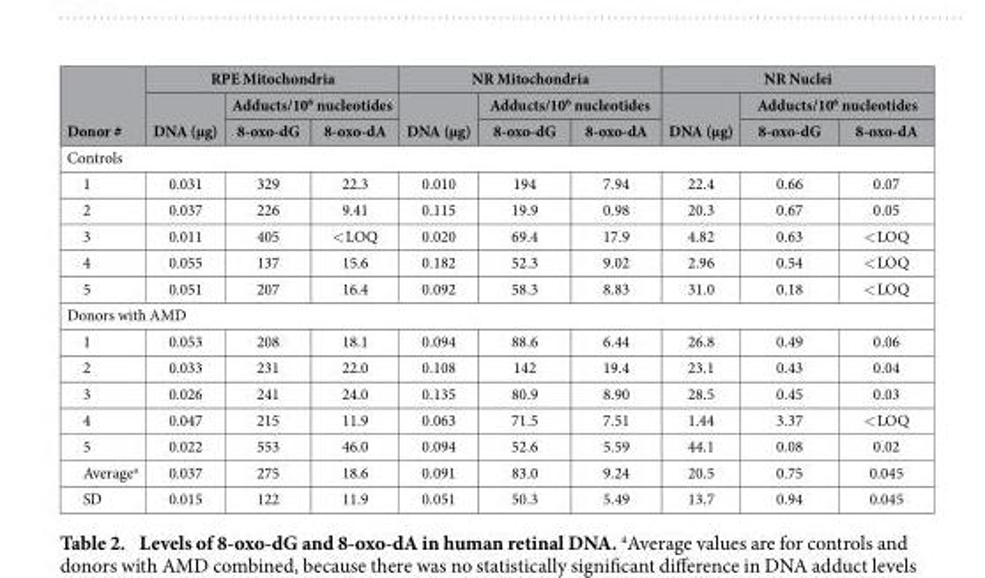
<table><thead><tr><td rowspan="3">Donor #</td><td colspan="3">RPE Mitochondria</td><td colspan="3">NR Mitochondria</td><td colspan="3">NR Nuclei</td></tr><tr><td rowspan="2">DNA (μg)</td><td colspan="2">Adducts/10<sup>6</sup> nucleotides</td><td rowspan="2">DNA (μg)</td><td colspan="2">Adducts/10<sup>6</sup> nucleotides</td><td rowspan="2">DNA (μg)</td><td colspan="2">Adducts/10<sup>6</sup> nucleotides</td></tr><tr><td>8-oxo-dG</td><td>8-oxo-dA</td><td>8-oxo-dG</td><td>8-oxo-dA</td><td>8-oxo-dG</td><td>8-oxo-dA</td></tr></thead><tbody><tr><td colspan="10">Controls</td></tr><tr><td>1</td><td>0.031</td><td>329</td><td>22.3</td><td>0.010</td><td>194</td><td>7.94</td><td>22.4</td><td>0.66</td><td>0.07</td></tr><tr><td>2</td><td>0.037</td><td>226</td><td>9.41</td><td>0.115</td><td>19.9</td><td>0.98</td><td>20.3</td><td>0.67</td><td>0.05</td></tr><tr><td>3</td><td>0.011</td><td>405</td><td>&lt; LOQ</td><td>0.020</td><td>69.4</td><td>17.9</td><td>4.82</td><td>0.63</td><td>&lt; LOQ</td></tr><tr><td>4</td><td>0.055</td><td>137</td><td>15.6</td><td>0.182</td><td>52.3</td><td>9.02</td><td>2.96</td><td>0.54</td><td>&lt; LOQ</td></tr><tr><td>5</td><td>0.051</td><td>207</td><td>16.4</td><td>0.092</td><td>58.3</td><td>8.83</td><td>31.0</td><td>0.18</td><td>&lt; LOQ</td></tr><tr><td colspan="10">Donors with AMD</td></tr><tr><td>1</td><td>0.053</td><td>208</td><td>18.1</td><td>0.094</td><td>88.6</td><td>6.44</td><td>26.8</td><td>0.49</td><td>0.06</td></tr><tr><td>2</td><td>0.033</td><td>231</td><td>22.0</td><td>0.108</td><td>142</td><td>19.4</td><td>23.1</td><td>0.43</td><td>0.04</td></tr><tr><td>3</td><td>0.026</td><td>241</td><td>24.0</td><td>0.135</td><td>80.9</td><td>8.90</td><td>28.5</td><td>0.45</td><td>0.03</td></tr><tr><td>4</td><td>0.047</td><td>215</td><td>11.9</td><td>0.063</td><td>71.5</td><td>7.51</td><td>1.44</td><td>3.37</td><td>&lt; LOQ</td></tr><tr><td>5</td><td>0.022</td><td>553</td><td>46.0</td><td>0.094</td><td>52.6</td><td>5.59</td><td>44.1</td><td>0.08</td><td>0.02</td></tr><tr><td>Average<sup>a</sup></td><td>0.037</td><td>275</td><td>18.6</td><td>0.091</td><td>83.0</td><td>9.24</td><td>20.5</td><td>0.75</td><td>0.045</td></tr><tr><td>SD</td><td>0.015</td><td>122</td><td>11.9</td><td>0.051</td><td>50.3</td><td>5.49</td><td>13.7</td><td>0.94</td><td>0.045</td></tr></tbody></table>